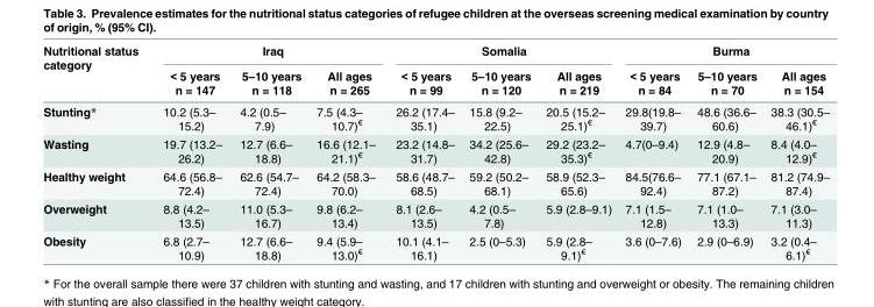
<table><thead><tr><td rowspan="3">Nutritional status category</td><td colspan="3">Iraq</td><td colspan="3">Somalia</td><td colspan="3">Burma</td></tr><tr><td rowspan="2">&lt; 5 years n = 147</td><td rowspan="2">5–10 years n = 118</td><td rowspan="2">All ages n = 265</td><td rowspan="2">&lt; 5 years n = 99</td><td rowspan="2">5–10 years n = 120</td><td rowspan="2">All ages n = 219</td><td rowspan="2">&lt; 5 years n = 84</td><td rowspan="2">5–10 years n = 70</td><td rowspan="2">All ages n = 154</td></tr><tr></tr></thead><tbody><tr><td>Stunting*</td><td>10.2 (5.3– 15.2)</td><td>4.2 (0.5– 7.9)</td><td>7.5 (4.3– 10.7)<sup>€</sup></td><td>26.2 (17.4– 35.1)</td><td>15.8 (9.2– 22.5)</td><td>20.5 (15.2– 25.1)<sup>€</sup></td><td>29.8(19.8– 39.7)</td><td>48.6 (36.6– 60.6)</td><td>38.3 (30.5– 46.1)<sup>€</sup></td></tr><tr><td>Wasting</td><td>19.7 (13.2– 26.2)</td><td>12.7 (6.6– 18.8)</td><td>16.6 (12.1– 21.1)<sup>€</sup></td><td>23.2 (14.8– 31.7)</td><td>34.2 (25.6– 42.8)</td><td>29.2 (23.2– 35.3)<sup>€</sup></td><td>4.7(0–9.4)</td><td>12.9 (4.8– 20.9)</td><td>8.4 (4.0– 12.9)<sup>€</sup></td></tr><tr><td>Healthy weight</td><td>64.6 (56.8– 72.4)</td><td>62.6 (54.7– 72.4)</td><td>64.2 (58.3– 70.0)</td><td>58.6 (48.7– 68.5)</td><td>59.2 (50.2– 68.1)</td><td>58.9 (52.3– 65.6)</td><td>84.5(76.6– 92.4)</td><td>77.1 (67.1– 87.2)</td><td>81.2 (74.9– 87.4)</td></tr><tr><td>Overweight</td><td>8.8 (4.2– 13.5)</td><td>11.0 (5.3– 16.7)</td><td>9.8 (6.2– 13.4)</td><td>8.1 (2.6– 13.5)</td><td>4.2 (0.5– 7.8)</td><td>5.9 (2.8–9.1)</td><td>7.1 (1.5– 12.8)</td><td>7.1 (1.0– 13.3)</td><td>7.1 (3.0– 11.3)</td></tr><tr><td>Obesity</td><td>6.8 (2.7– 10.9)</td><td>12.7 (6.6– 18.8)</td><td>9.4 (5.9– 13.0)<sup>€</sup></td><td>10.1 (4.1– 16.1)</td><td>2.5 (0–5.3)</td><td>5.9 (2.8– 9.1)<sup>€</sup></td><td>3.6 (0–7.6)</td><td>2.9 (0–6.9)</td><td>3.2 (0.4– 6.1)<sup>€</sup></td></tr></tbody></table>